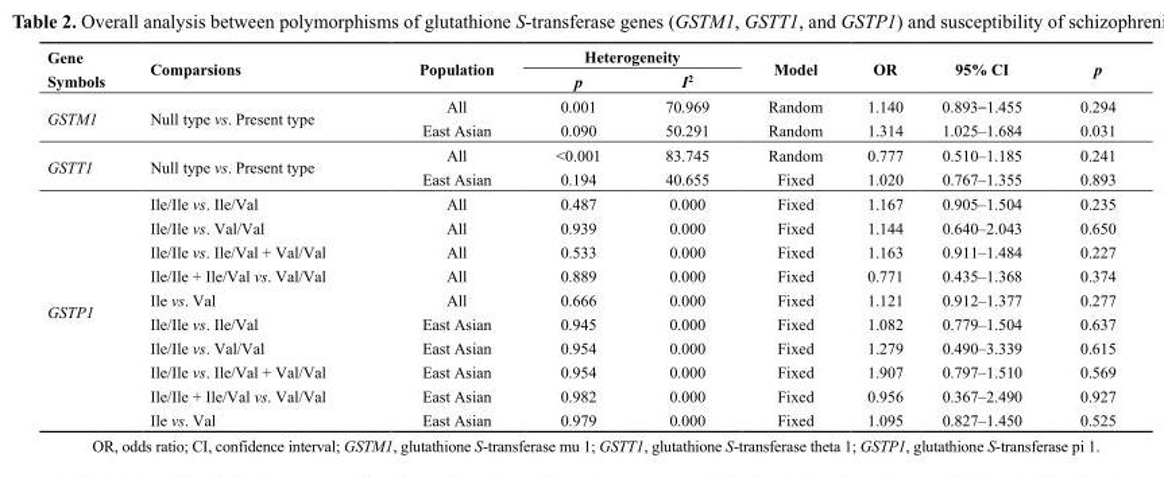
<table><thead><tr><td rowspan="2">Gene Symbols</td><td rowspan="2">Comparsions</td><td rowspan="2">Population</td><td colspan="2">Heterogeneity</td><td rowspan="2">Model</td><td rowspan="2">OR</td><td rowspan="2">95% CI</td><td rowspan="2">p</td></tr><tr><td>p</td><td>I<sup>2</sup></td></tr></thead><tbody><tr><td rowspan="2">GSTM1</td><td rowspan="2">Null type vs. Present type</td><td>All</td><td>0.001</td><td>70.969</td><td>Random</td><td>1.140</td><td>0.893–1.455</td><td>0.294</td></tr><tr><td>East Asian</td><td>0.090</td><td>50.291</td><td>Random</td><td>1.314</td><td>1.025–1.684</td><td>0.031</td></tr><tr><td rowspan="2">GSTT1</td><td rowspan="2">Null type vs. Present type</td><td>All</td><td>&lt;0.001</td><td>83.745</td><td>Random</td><td>0.777</td><td>0.510–1.185</td><td>0.241</td></tr><tr><td>East Asian</td><td>0.194</td><td>40.655</td><td>Fixed</td><td>1.020</td><td>0.767–1.355</td><td>0.893</td></tr><tr><td rowspan="10">GSTP1</td><td>Ile/Ile vs. Ile/Val</td><td>All</td><td>0.487</td><td>0.000</td><td>Fixed</td><td>1.167</td><td>0.905–1.504</td><td>0.235</td></tr><tr><td>Ile/Ile vs. Val/Val</td><td>All</td><td>0.939</td><td>0.000</td><td>Fixed</td><td>1.144</td><td>0.640–2.043</td><td>0.650</td></tr><tr><td>Ile/Ile vs. Ile/Val + Val/Val</td><td>All</td><td>0.533</td><td>0.000</td><td>Fixed</td><td>1.163</td><td>0.911–1.484</td><td>0.227</td></tr><tr><td>Ile/Ile + Ile/Val vs. Val/Val</td><td>All</td><td>0.889</td><td>0.000</td><td>Fixed</td><td>0.771</td><td>0.435–1.368</td><td>0.374</td></tr><tr><td>Ile vs. Val</td><td>All</td><td>0.666</td><td>0.000</td><td>Fixed</td><td>1.121</td><td>0.912–1.377</td><td>0.277</td></tr><tr><td>Ile/Ile vs. Ile/Val</td><td>East Asian</td><td>0.945</td><td>0.000</td><td>Fixed</td><td>1.082</td><td>0.779–1.504</td><td>0.637</td></tr><tr><td>Ile/Ile vs. Val/Val</td><td>East Asian</td><td>0.954</td><td>0.000</td><td>Fixed</td><td>1.279</td><td>0.490–3.339</td><td>0.615</td></tr><tr><td>Ile/Ile vs. Ile/Val + Val/Val</td><td>East Asian</td><td>0.954</td><td>0.000</td><td>Fixed</td><td>1.907</td><td>0.797–1.510</td><td>0.569</td></tr><tr><td>Ile/Ile + Ile/Val vs. Val/Val</td><td>East Asian</td><td>0.982</td><td>0.000</td><td>Fixed</td><td>0.956</td><td>0.367–2.490</td><td>0.927</td></tr><tr><td>Ile vs. Val</td><td>East Asian</td><td>0.979</td><td>0.000</td><td>Fixed</td><td>1.095</td><td>0.827–1.450</td><td>0.525</td></tr></tbody></table>